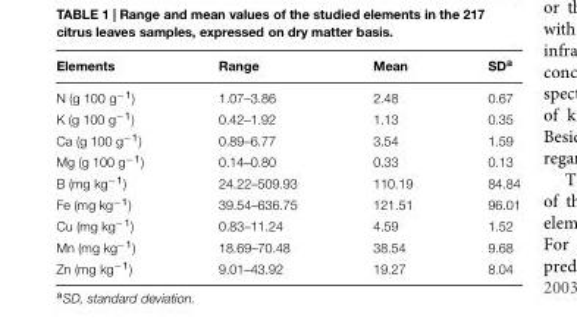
<table><thead><tr><td>Elements</td><td>Range</td><td>Mean</td><td>SD<sup>a</sup></td></tr></thead><tbody><tr><td>N (g 100 g<sup>−1</sup>)</td><td>1.07–3.86</td><td>2.48</td><td>0.67</td></tr><tr><td>K (g 100 g<sup>−1</sup>)</td><td>0.42–1.92</td><td>1.13</td><td>0.35</td></tr><tr><td>Ca (g 100 g<sup>−1</sup>)</td><td>0.89–6.77</td><td>3.54</td><td>1.59</td></tr><tr><td>Mg (g 100 g<sup>−1</sup>)</td><td>0.14–0.80</td><td>0.33</td><td>0.13</td></tr><tr><td>B (mg kg<sup>−1</sup>)</td><td>24.22–509.93</td><td>110.19</td><td>84.84</td></tr><tr><td>Fe (mg kg<sup>−1</sup>)</td><td>39.54–636.75</td><td>121.51</td><td>96.01</td></tr><tr><td>Cu (mg kg<sup>−1</sup>)</td><td>0.83–11.24</td><td>4.59</td><td>1.52</td></tr><tr><td>Mn (mg kg<sup>−1</sup>)</td><td>18.69–70.48</td><td>38.54</td><td>9.68</td></tr><tr><td>Zn (mg kg<sup>−1</sup>)</td><td>9.01–43.92</td><td>19.27</td><td>8.04</td></tr></tbody></table>